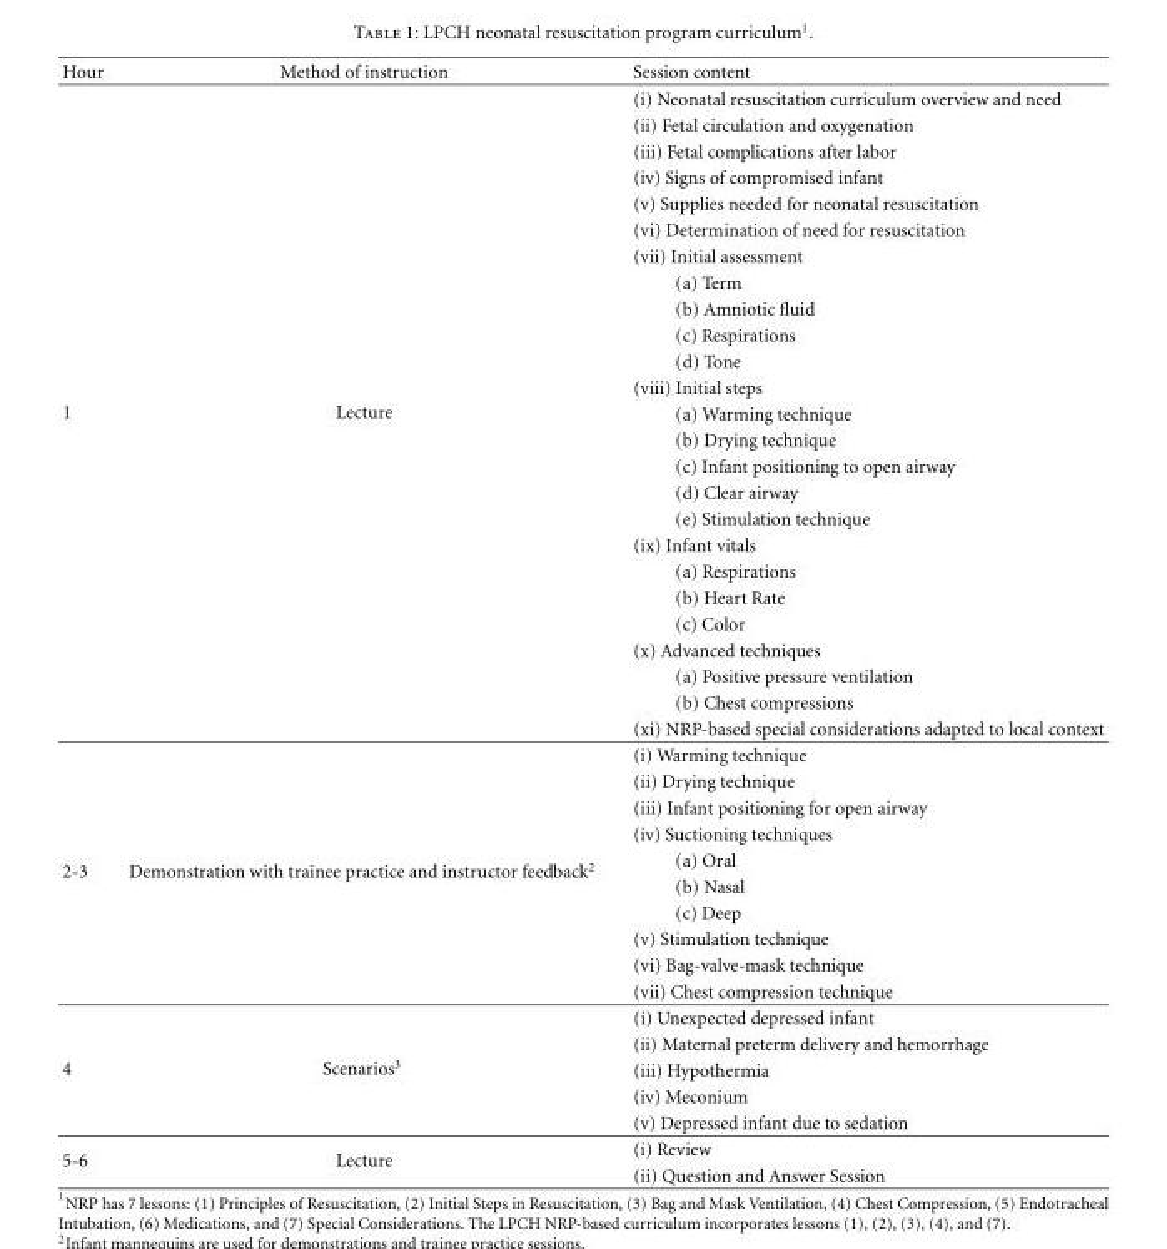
<table><thead><tr><td>Hour</td><td>Method of instruction</td><td>Session content</td></tr></thead><tbody><tr><td rowspan="25">1</td><td rowspan="25">Lecture</td><td>(i) Neonatal resuscitation curriculum overview and need</td></tr><tr><td>(ii) Fetal circulation and oxygenation</td></tr><tr><td>(iii) Fetal complications after labor</td></tr><tr><td>(iv) Signs of compromised infant</td></tr><tr><td>(v) Supplies needed for neonatal resuscitation</td></tr><tr><td>(vi) Determination of need for resuscitation</td></tr><tr><td>(vii) Initial assessment</td></tr><tr><td>(a) Term</td></tr><tr><td>(b) Amniotic fluid</td></tr><tr><td>(c) Respirations</td></tr><tr><td>(d) Tone</td></tr><tr><td>(viii) Initial steps</td></tr><tr><td>(a) Warming technique</td></tr><tr><td>(b) Drying technique</td></tr><tr><td>(c) Infant positioning to open airway</td></tr><tr><td>(d) Clear airway</td></tr><tr><td>(e) Stimulation technique</td></tr><tr><td>(ix) Infant vitals</td></tr><tr><td>(a) Respirations</td></tr><tr><td>(b) Heart Rate</td></tr><tr><td>(c) Color</td></tr><tr><td>(x) Advanced techniques</td></tr><tr><td>(a) Positive pressure ventilation</td></tr><tr><td>(b) Chest compressions</td></tr><tr><td>(xi) NRP-based special considerations adapted to local context</td></tr><tr><td rowspan="10">2-3</td><td rowspan="10">Demonstration with trainee practice and instructor feedback<sup>2</sup></td><td>(i) Warming technique</td></tr><tr><td>(ii) Drying technique</td></tr><tr><td>(iii) Infant positioning for open airway</td></tr><tr><td>(iv) Suctioning techniques</td></tr><tr><td>(a) Oral</td></tr><tr><td>(b) Nasal</td></tr><tr><td>(c) Deep</td></tr><tr><td>(v) Stimulation technique</td></tr><tr><td>(vi) Bag-valve-mask technique</td></tr><tr><td>(vii) Chest compression technique</td></tr><tr><td rowspan="5">4</td><td rowspan="5">Scenarios<sup>3</sup></td><td>(i) Unexpected depressed infant</td></tr><tr><td>(ii) Maternal preterm delivery and hemorrhage</td></tr><tr><td>(iii) Hypothermia</td></tr><tr><td>(iv) Meconium</td></tr><tr><td>(v) Depressed infant due to sedation</td></tr><tr><td rowspan="2">5-6</td><td rowspan="2">Lecture</td><td>(i) Review</td></tr><tr><td>(ii) Question and Answer Session</td></tr></tbody></table>